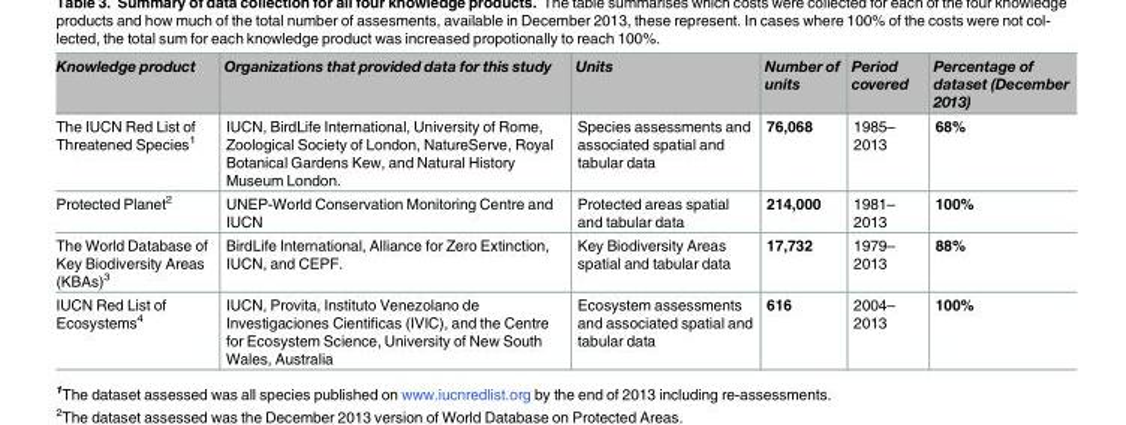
<table><thead><tr><td>Knowledge product</td><td>Organizations that provided data for this study</td><td>Units</td><td>Number of units</td><td>Period covered</td><td>Percentage of dataset (December 2013)</td></tr></thead><tbody><tr><td>The IUCN Red List of Threatened Species<sup>1</sup></td><td>IUCN, BirdLife International, University of Rome, Zoological Society of London, NatureServe, Royal Botanical Gardens Kew, and Natural History Museum London.</td><td>Species assessments and associated spatial and tabular data</td><td>76,068</td><td>1985– 2013</td><td>68%</td></tr><tr><td>Protected Planet<sup>2</sup></td><td>UNEP-World Conservation Monitoring Centre and IUCN</td><td>Protected areas spatial and tabular data</td><td>214,000</td><td>1981– 2013</td><td>100%</td></tr><tr><td>The World Database of Key Biodiversity Areas (KBAs)<sup>3</sup></td><td>BirdLife International, Alliance for Zero Extinction, IUCN, and CEPF.</td><td>Key Biodiversity Areas spatial and tabular data</td><td>17,732</td><td>1979– 2013</td><td>88%</td></tr><tr><td>IUCN Red List of Ecosystems<sup>4</sup></td><td>IUCN, Provita, Instituto Venezolano de Investigaciones Cientificas (IVIC), and the Centre for Ecosystem Science, University of New South Wales, Australia</td><td>Ecosystem assessments and associated spatial and tabular data</td><td>616</td><td>2004– 2013</td><td>100%</td></tr></tbody></table>